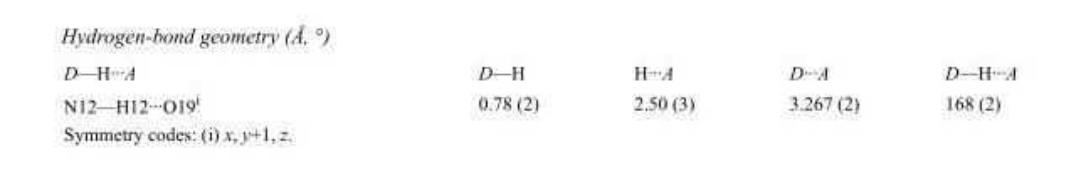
<table><tbody><tr><td>D—H···A</td><td>D—H</td><td>H···A</td><td>D···A</td><td>D—H···A</td></tr><tr><td>N12—H12···O19<sup>i</sup></td><td>0.78 (2)</td><td>2.50 (3)</td><td>3.267 (2)</td><td>168 (2)</td></tr></tbody></table>